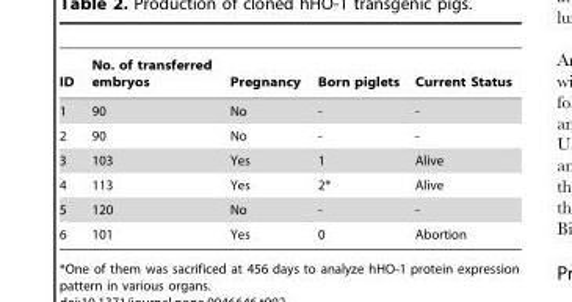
<table><thead><tr><td>ID</td><td>No. of transferred embryos</td><td>Pregnancy</td><td>Born piglets</td><td>Current Status</td></tr></thead><tbody><tr><td>1</td><td>90</td><td>No</td><td>-</td><td>-</td></tr><tr><td>2</td><td>90</td><td>No</td><td>-</td><td>-</td></tr><tr><td>3</td><td>103</td><td>Yes</td><td>1</td><td>Alive</td></tr><tr><td>4</td><td>113</td><td>Yes</td><td>2*</td><td>Alive</td></tr><tr><td>5</td><td>120</td><td>No</td><td>-</td><td>-</td></tr><tr><td>6</td><td>101</td><td>Yes</td><td>0</td><td>Abortion</td></tr></tbody></table>